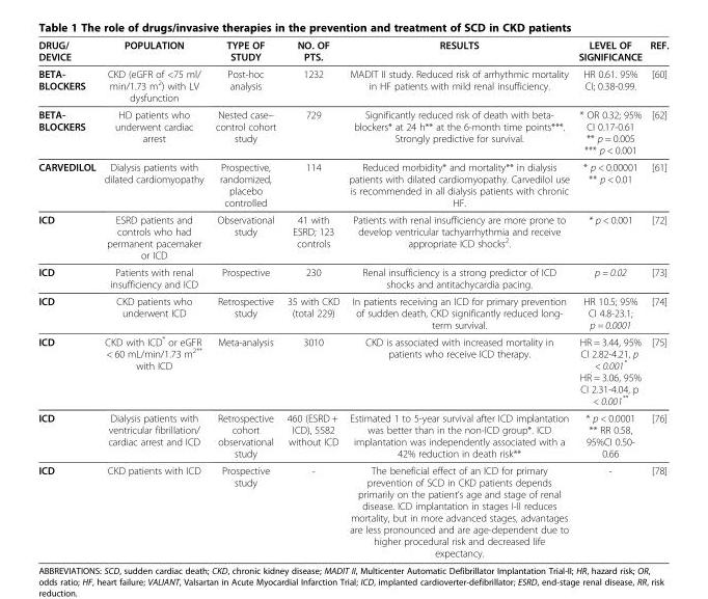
<table><thead><tr><td>DRUG/ DEVICE</td><td>POPULATION</td><td>TYPE OF STUDY</td><td>NO. OF PTS.</td><td>RESULTS</td><td>LEVEL OF SIGNIFICANCE</td><td>REF.</td></tr></thead><tbody><tr><td>BETA- BLOCKERS</td><td>CKD (eGFR of &lt;75 ml/ min/1.73 m<sup>2</sup>) with LV dysfunction</td><td>Post-hoc analysis</td><td>1232</td><td>MADIT II study. Reduced risk of arrhythmic mortality in HF patients with mild renal insufficiency.</td><td>HR 0.61. 95% CI; 0.38-0.99.</td><td>[60]</td></tr><tr><td>BETA- BLOCKERS</td><td>HD patients who underwent cardiac arrest</td><td>Nested case– control cohort study</td><td>729</td><td>Significantly reduced risk of death with beta- blockers* at 24 h** at the 6-month time points***. Strongly predictive for survival.</td><td>* OR 0.32; 95% CI 0.17-0.61 ** p = 0.005 *** p &lt; 0.001</td><td>[62]</td></tr><tr><td>CARVEDILOL</td><td>Dialysis patients with dilated cardiomyopathy</td><td>Prospective, randomized, placebo controlled</td><td>114</td><td>Reduced morbidity* and mortality** in dialysis patients with dilated cardiomyopathy. Carvedilol use is recommended in all dialysis patients with chronic HF.</td><td>* p &lt; 0.00001 ** p &lt; 0.01</td><td>[61]</td></tr><tr><td>ICD</td><td>ESRD patients and controls who had permanent pacemaker or ICD</td><td>Observational study</td><td>41 with ESRD; 123 controls</td><td>Patients with renal insufficiency are more prone to develop ventricular tachyarrhythmia and receive appropriate ICD shocks<sup>2</sup>.</td><td>* p &lt; 0.001</td><td>[72]</td></tr><tr><td>ICD</td><td>Patients with renal insufficiency and ICD</td><td>Prospective</td><td>230</td><td>Renal insufficiency is a strong predictor of ICD shocks and antitachycardia pacing.</td><td>p = 0.02</td><td>[73]</td></tr><tr><td>ICD</td><td>CKD patients who underwent ICD</td><td>Retrospective study</td><td>35 with CKD (total 229)</td><td>In patients receiving an ICD for primary prevention of sudden death, CKD significantly reduced long- term survival.</td><td>HR 10.5; 95% CI 4.8-23.1; p = 0.0001</td><td>[74]</td></tr><tr><td>ICD</td><td>CKD with ICD* or eGFR &lt; 60 mL/min/1.73 m<sup>2**</sup> with ICD</td><td>Meta-analysis</td><td>3010</td><td>CKD is associated with increased mortality in patients who receive ICD therapy.</td><td>HR = 3.44, 95% CI 2.82-4.21, p &lt; 0.001* HR = 3.06, 95% CI 2.31-4.04, p &lt; 0.001**</td><td>[75]</td></tr><tr><td>ICD</td><td>Dialysis patients with ventricular fibrillation/ cardiac arrest and ICD</td><td>Retrospective cohort observational study</td><td>460 (ESRD + ICD), 5582 without ICD</td><td>Estimated 1 to 5-year survival after ICD implantation was better than in the non-ICD group*. ICD implantation was independently associated with a 42% reduction in death risk**</td><td>* p &lt; 0.0001 ** RR 0.58, 95%CI 0.50- 0.66</td><td>[76]</td></tr><tr><td>ICD</td><td>CKD patients with ICD</td><td>Prospective study</td><td>-</td><td>The beneficial effect of an ICD for primary prevention of SCD in CKD patients depends primarily on the patient’s age and stage of renal disease. ICD implantation in stages I-II reduces mortality, but in more advanced stages, advantages are less pronounced and are age-dependent due to higher procedural risk and decreased life expectancy.</td><td>-</td><td>[78]</td></tr></tbody></table>